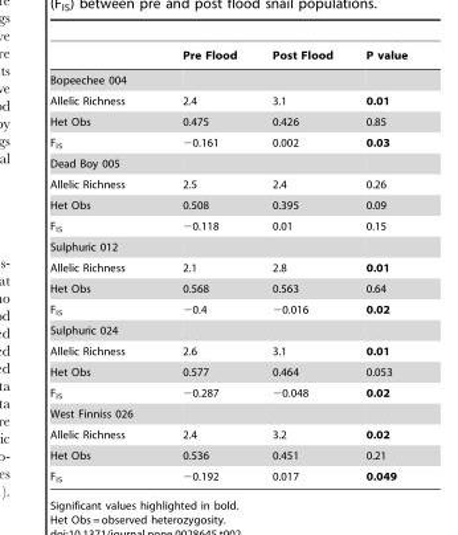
<table><thead><tr><td></td><td>Pre Flood</td><td>Post Flood</td><td>P value</td></tr></thead><tbody><tr><td colspan="4">Bopeechee 004</td></tr><tr><td>Allelic Richness</td><td>2.4</td><td>3.1</td><td>0.01</td></tr><tr><td>Het Obs</td><td>0.475</td><td>0.426</td><td>0.85</td></tr><tr><td>F<sub>IS</sub></td><td>−0.161</td><td>0.002</td><td>0.03</td></tr><tr><td colspan="4">Dead Boy 005</td></tr><tr><td>Allelic Richness</td><td>2.5</td><td>2.4</td><td>0.26</td></tr><tr><td>Het Obs</td><td>0.508</td><td>0.395</td><td>0.09</td></tr><tr><td>F<sub>IS</sub></td><td>−0.118</td><td>0.01</td><td>0.15</td></tr><tr><td colspan="4">Sulphuric 012</td></tr><tr><td>Allelic Richness</td><td>2.1</td><td>2.8</td><td>0.01</td></tr><tr><td>Het Obs</td><td>0.568</td><td>0.563</td><td>0.64</td></tr><tr><td>F<sub>IS</sub></td><td>−0.4</td><td>−0.016</td><td>0.02</td></tr><tr><td colspan="4">Sulphuric 024</td></tr><tr><td>Allelic Richness</td><td>2.6</td><td>3.1</td><td>0.01</td></tr><tr><td>Het Obs</td><td>0.577</td><td>0.464</td><td>0.053</td></tr><tr><td>F<sub>IS</sub></td><td>−0.287</td><td>−0.048</td><td>0.02</td></tr><tr><td colspan="4">West Finniss 026</td></tr><tr><td>Allelic Richness</td><td>2.4</td><td>3.2</td><td>0.02</td></tr><tr><td>Het Obs</td><td>0.536</td><td>0.451</td><td>0.21</td></tr><tr><td>F<sub>IS</sub></td><td>−0.192</td><td>0.017</td><td>0.049</td></tr></tbody></table>